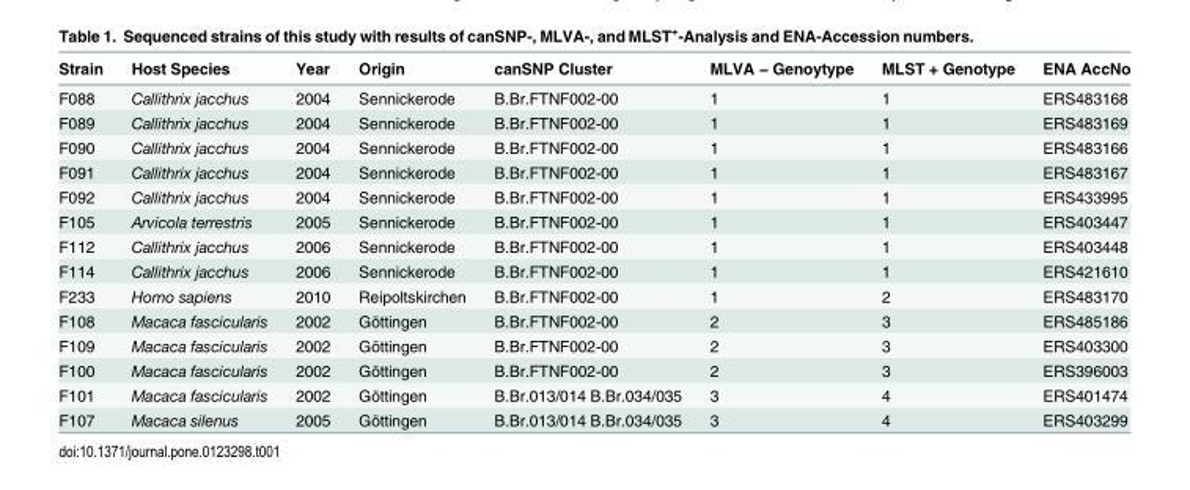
<table><thead><tr><td>Strain</td><td>Host Species</td><td>Year</td><td>Origin</td><td>canSNP Cluster</td><td>MLVA − Genoytype</td><td>MLST + Genotype</td><td>ENA AccNo</td></tr></thead><tbody><tr><td>F088</td><td>Callithrix jacchus</td><td>2004</td><td>Sennickerode</td><td>B.Br.FTNF002-00</td><td>1</td><td>1</td><td>ERS483168</td></tr><tr><td>F089</td><td>Callithrix jacchus</td><td>2004</td><td>Sennickerode</td><td>B.Br.FTNF002-00</td><td>1</td><td>1</td><td>ERS483169</td></tr><tr><td>F090</td><td>Callithrix jacchus</td><td>2004</td><td>Sennickerode</td><td>B.Br.FTNF002-00</td><td>1</td><td>1</td><td>ERS483166</td></tr><tr><td>F091</td><td>Callithrix jacchus</td><td>2004</td><td>Sennickerode</td><td>B.Br.FTNF002-00</td><td>1</td><td>1</td><td>ERS483167</td></tr><tr><td>F092</td><td>Callithrix jacchus</td><td>2004</td><td>Sennickerode</td><td>B.Br.FTNF002-00</td><td>1</td><td>1</td><td>ERS433995</td></tr><tr><td>F105</td><td>Arvicola terrestris</td><td>2005</td><td>Sennickerode</td><td>B.Br.FTNF002-00</td><td>1</td><td>1</td><td>ERS403447</td></tr><tr><td>F112</td><td>Callithrix jacchus</td><td>2006</td><td>Sennickerode</td><td>B.Br.FTNF002-00</td><td>1</td><td>1</td><td>ERS403448</td></tr><tr><td>F114</td><td>Callithrix jacchus</td><td>2006</td><td>Sennickerode</td><td>B.Br.FTNF002-00</td><td>1</td><td>1</td><td>ERS421610</td></tr><tr><td>F233</td><td>Homo sapiens</td><td>2010</td><td>Reipoltskirchen</td><td>B.Br.FTNF002-00</td><td>1</td><td>2</td><td>ERS483170</td></tr><tr><td>F108</td><td>Macaca fascicularis</td><td>2002</td><td>Göttingen</td><td>B.Br.FTNF002-00</td><td>2</td><td>3</td><td>ERS485186</td></tr><tr><td>F109</td><td>Macaca fascicularis</td><td>2002</td><td>Göttingen</td><td>B.Br.FTNF002-00</td><td>2</td><td>3</td><td>ERS403300</td></tr><tr><td>F100</td><td>Macaca fascicularis</td><td>2002</td><td>Göttingen</td><td>B.Br.FTNF002-00</td><td>2</td><td>3</td><td>ERS396003</td></tr><tr><td>F101</td><td>Macaca fascicularis</td><td>2002</td><td>Göttingen</td><td>B.Br.013/014 B.Br.034/035</td><td>3</td><td>4</td><td>ERS401474</td></tr><tr><td>F107</td><td>Macaca silenus</td><td>2005</td><td>Göttingen</td><td>B.Br.013/014 B.Br.034/035</td><td>3</td><td>4</td><td>ERS403299</td></tr></tbody></table>